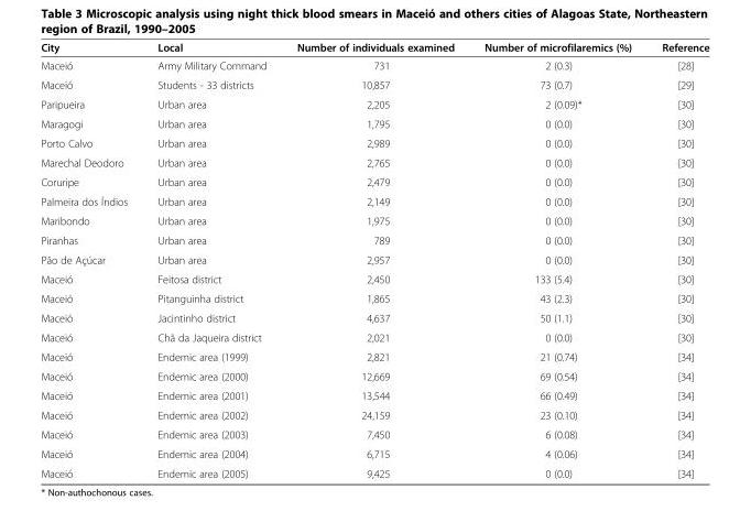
<table><thead><tr><td>City</td><td>Local</td><td>Number of individuals examined</td><td>Number of microfilaremics (%)</td><td>Reference</td></tr></thead><tbody><tr><td>Maceió</td><td>Army Military Command</td><td>731</td><td>2 (0.3)</td><td>[28]</td></tr><tr><td>Maceió</td><td>Students - 33 districts</td><td>10,857</td><td>73 (0.7)</td><td>[29]</td></tr><tr><td>Paripueira</td><td>Urban area</td><td>2,205</td><td>2 (0.09)*</td><td>[30]</td></tr><tr><td>Maragogi</td><td>Urban area</td><td>1,795</td><td>0 (0.0)</td><td>[30]</td></tr><tr><td>Porto Calvo</td><td>Urban area</td><td>2,989</td><td>0 (0.0)</td><td>[30]</td></tr><tr><td>Marechal Deodoro</td><td>Urban area</td><td>2,765</td><td>0 (0.0)</td><td>[30]</td></tr><tr><td>Coruripe</td><td>Urban area</td><td>2,479</td><td>0 (0.0)</td><td>[30]</td></tr><tr><td>Palmeira dos Índios</td><td>Urban area</td><td>2,149</td><td>0 (0.0)</td><td>[30]</td></tr><tr><td>Maribondo</td><td>Urban area</td><td>1,975</td><td>0 (0.0)</td><td>[30]</td></tr><tr><td>Piranhas</td><td>Urban area</td><td>789</td><td>0 (0.0)</td><td>[30]</td></tr><tr><td>Pão de Açúcar</td><td>Urban area</td><td>2,957</td><td>0 (0.0)</td><td>[30]</td></tr><tr><td>Maceió</td><td>Feitosa district</td><td>2,450</td><td>133 (5.4)</td><td>[30]</td></tr><tr><td>Maceió</td><td>Pitanguinha district</td><td>1,865</td><td>43 (2.3)</td><td>[30]</td></tr><tr><td>Maceió</td><td>Jacintinho district</td><td>4,637</td><td>50 (1.1)</td><td>[30]</td></tr><tr><td>Maceió</td><td>Chã da Jaqueira district</td><td>2,021</td><td>0 (0.0)</td><td>[30]</td></tr><tr><td>Maceió</td><td>Endemic area (1999)</td><td>2,821</td><td>21 (0.74)</td><td>[34]</td></tr><tr><td>Maceió</td><td>Endemic area (2000)</td><td>12,669</td><td>69 (0.54)</td><td>[34]</td></tr><tr><td>Maceió</td><td>Endemic area (2001)</td><td>13,544</td><td>66 (0.49)</td><td>[34]</td></tr><tr><td>Maceió</td><td>Endemic area (2002)</td><td>24,159</td><td>23 (0.10)</td><td>[34]</td></tr><tr><td>Maceió</td><td>Endemic area (2003)</td><td>7,450</td><td>6 (0.08)</td><td>[34]</td></tr><tr><td>Maceió</td><td>Endemic area (2004)</td><td>6,715</td><td>4 (0.06)</td><td>[34]</td></tr><tr><td>Maceió</td><td>Endemic area (2005)</td><td>9,425</td><td>0 (0.0)</td><td>[34]</td></tr></tbody></table>